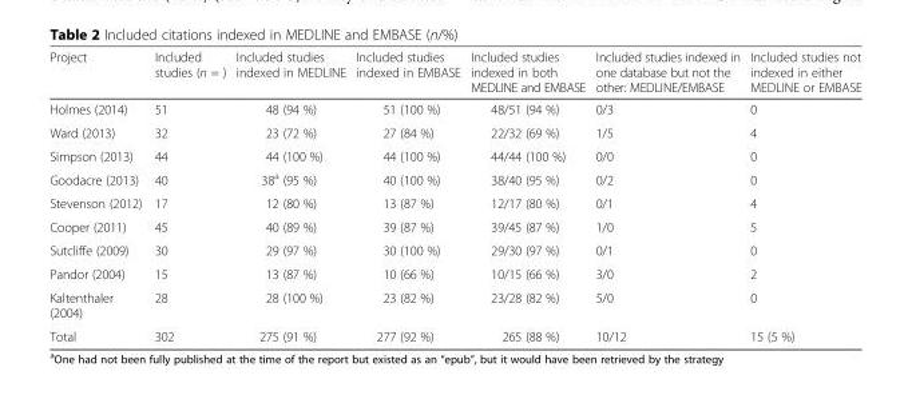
<table><thead><tr><td>Project</td><td>Included studies (n = )</td><td>Included studies indexed in MEDLINE</td><td>Included studies indexed in EMBASE</td><td>Included studies indexed in both MEDLINE and EMBASE</td><td>Included studies indexed in one database but not the other: MEDLINE/EMBASE</td><td>Included studies not indexed in either MEDLINE or EMBASE</td></tr></thead><tbody><tr><td>Holmes (2014)</td><td>51</td><td>48 (94 %)</td><td>51 (100 %)</td><td>48/51 (94 %)</td><td>0/3</td><td>0</td></tr><tr><td>Ward (2013)</td><td>32</td><td>23 (72 %)</td><td>27 (84 %)</td><td>22/32 (69 %)</td><td>1/5</td><td>4</td></tr><tr><td>Simpson (2013)</td><td>44</td><td>44 (100 %)</td><td>44 (100 %)</td><td>44/44 (100 %)</td><td>0/0</td><td>0</td></tr><tr><td>Goodacre (2013)</td><td>40</td><td>38<sup>a</sup> (95 %)</td><td>40 (100 %)</td><td>38/40 (95 %)</td><td>0/2</td><td>0</td></tr><tr><td>Stevenson (2012)</td><td>17</td><td>12 (80 %)</td><td>13 (87 %)</td><td>12/17 (80 %)</td><td>0/1</td><td>4</td></tr><tr><td>Cooper (2011)</td><td>45</td><td>40 (89 %)</td><td>39 (87 %)</td><td>39/45 (87 %)</td><td>1/0</td><td>5</td></tr><tr><td>Sutcliffe (2009)</td><td>30</td><td>29 (97 %)</td><td>30 (100 %)</td><td>29/30 (97 %)</td><td>0/1</td><td>0</td></tr><tr><td>Pandor (2004)</td><td>15</td><td>13 (87 %)</td><td>10 (66 %)</td><td>10/15 (66 %)</td><td>3/0</td><td>2</td></tr><tr><td>Kaltenthaler (2004)</td><td>28</td><td>28 (100 %)</td><td>23 (82 %)</td><td>23/28 (82 %)</td><td>5/0</td><td>0</td></tr><tr><td>Total</td><td>302</td><td>275 (91 %)</td><td>277 (92 %)</td><td>265 (88 %)</td><td>10/12</td><td>15 (5 %)</td></tr></tbody></table>